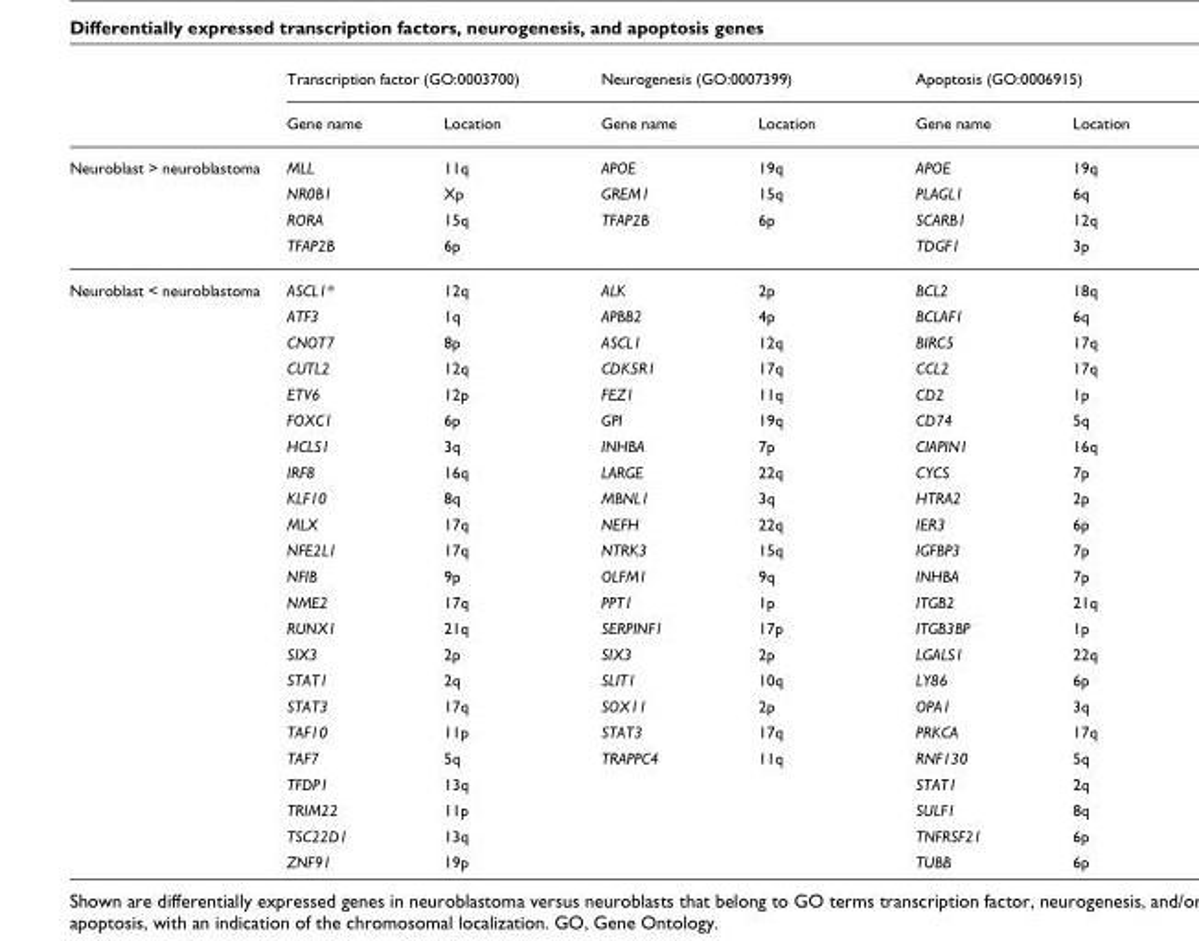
<table><thead><tr><td rowspan="2"></td><td colspan="2">Transcription factor (GO:0003700)</td><td colspan="2">Neurogenesis (GO:0007399)</td><td colspan="2">Apoptosis (GO:0006915)</td></tr><tr><td>Gene name</td><td>Location</td><td>Gene name</td><td>Location</td><td>Gene name</td><td>Location</td></tr></thead><tbody><tr><td rowspan="4">Neuroblast &gt; neuroblastoma</td><td>MLL</td><td>11q</td><td>APOE</td><td>19q</td><td>APOE</td><td>19q</td></tr><tr><td>NR0B1</td><td>Xp</td><td>GREM1</td><td>15q</td><td>PLAGL1</td><td>6q</td></tr><tr><td>RORA</td><td>15q</td><td>TFAP2B</td><td>6p</td><td>SCARB1</td><td>12q</td></tr><tr><td>TFAP2B</td><td>6p</td><td></td><td></td><td>TDGF1</td><td>3p</td></tr><tr><td rowspan="23">Neuroblast &lt; neuroblastoma</td><td>ASCL1*</td><td>12q</td><td>ALK</td><td>2p</td><td>BCL2</td><td>18q</td></tr><tr><td>ATF3</td><td>1q</td><td>APBB2</td><td>4p</td><td>BCLAF1</td><td>6q</td></tr><tr><td>CNOT7</td><td>8p</td><td>ASCL1</td><td>12q</td><td>BIRC5</td><td>17q</td></tr><tr><td>CUTL2</td><td>12q</td><td>CDK5R1</td><td>17q</td><td>CCL2</td><td>17q</td></tr><tr><td>ETV6</td><td>12p</td><td>FEZ1</td><td>11q</td><td>CD2</td><td>1p</td></tr><tr><td>FOXC1</td><td>6p</td><td>GPI</td><td>19q</td><td>CD74</td><td>5q</td></tr><tr><td>HCLS1</td><td>3q</td><td>INHBA</td><td>7p</td><td>CIAPIN1</td><td>16q</td></tr><tr><td>IRF8</td><td>16q</td><td>LARGE</td><td>22q</td><td>CYCS</td><td>7p</td></tr><tr><td>KLF10</td><td>8q</td><td>MBNL1</td><td>3q</td><td>HTRA2</td><td>2p</td></tr><tr><td>MLX</td><td>17q</td><td>NEFH</td><td>22q</td><td>IER3</td><td>6p</td></tr><tr><td>NFE2L1</td><td>17q</td><td>NTRK3</td><td>15q</td><td>IGFBP3</td><td>7p</td></tr><tr><td>NFIB</td><td>9p</td><td>OLFM1</td><td>9q</td><td>INHBA</td><td>7p</td></tr><tr><td>NME2</td><td>17q</td><td>PPT1</td><td>1p</td><td>ITGB2</td><td>21q</td></tr><tr><td>RUNX1</td><td>21q</td><td>SERPINF1</td><td>17p</td><td>ITGB3BP</td><td>1p</td></tr><tr><td>SIX3</td><td>2p</td><td>SIX3</td><td>2p</td><td>LGALS1</td><td>22q</td></tr><tr><td>STAT1</td><td>2q</td><td>SLIT1</td><td>10q</td><td>LY86</td><td>6p</td></tr><tr><td>STAT3</td><td>17q</td><td>SOX11</td><td>2p</td><td>OPA1</td><td>3q</td></tr><tr><td>TAF10</td><td>11p</td><td>STAT3</td><td>17q</td><td>PRKCA</td><td>17q</td></tr><tr><td>TAF7</td><td>5q</td><td>TRAPPC4</td><td>11q</td><td>RNF130</td><td>5q</td></tr><tr><td>TFDP1</td><td>13q</td><td></td><td></td><td>STAT1</td><td>2q</td></tr><tr><td>TRIM22</td><td>11p</td><td></td><td></td><td>SULF1</td><td>8q</td></tr><tr><td>TSC22D1</td><td>13q</td><td></td><td></td><td>TNFRSF21</td><td>6p</td></tr><tr><td>ZNF91</td><td>19p</td><td></td><td></td><td>TUBB</td><td>6p</td></tr></tbody></table>